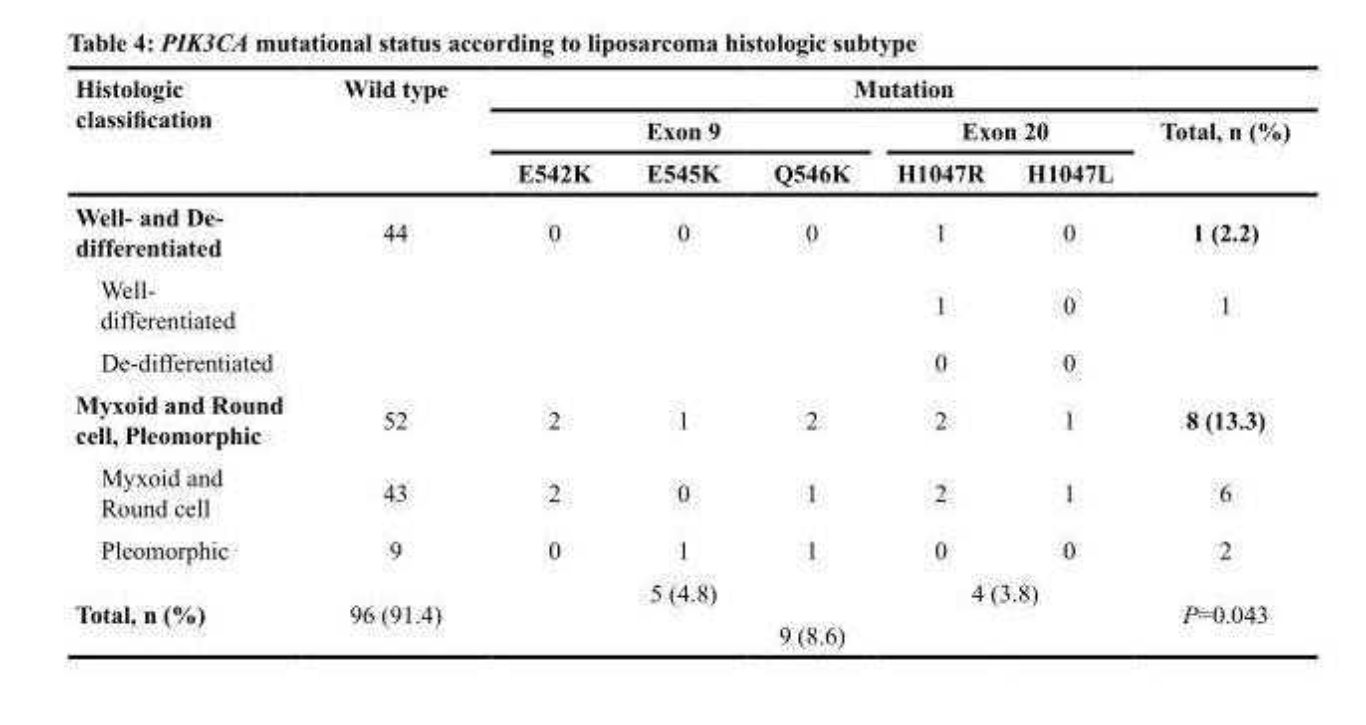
<table><thead><tr><td rowspan="3">Histologic classification</td><td rowspan="3">Wild type</td><td colspan="6">Mutation</td></tr><tr><td colspan="3">Exon 9</td><td colspan="2">Exon 20</td><td rowspan="2">Total, n (%)</td></tr><tr><td>E542K</td><td>E545K</td><td>Q546K</td><td>H1047R</td><td>H1047L</td></tr></thead><tbody><tr><td>Well- and De- differentiated</td><td>44</td><td>0</td><td>0</td><td>0</td><td>1</td><td>0</td><td>1 (2.2)</td></tr><tr><td>Well- differentiated</td><td></td><td></td><td></td><td></td><td>1</td><td>0</td><td>1</td></tr><tr><td>De-differentiated</td><td></td><td></td><td></td><td></td><td>0</td><td>0</td><td></td></tr><tr><td>Myxoid and Round cell, Pleomorphic</td><td>52</td><td>2</td><td>1</td><td>2</td><td>2</td><td>1</td><td>8 (13.3)</td></tr><tr><td>Myxoid and Round cell</td><td>43</td><td>2</td><td>0</td><td>1</td><td>2</td><td>1</td><td>6</td></tr><tr><td>Pleomorphic</td><td>9</td><td>0</td><td>1</td><td>1</td><td>0</td><td>0</td><td>2</td></tr><tr><td rowspan="2">Total, n (%)</td><td rowspan="2">96 (91.4)</td><td rowspan="2"></td><td rowspan="2">5 (4.8)</td><td></td><td colspan="2">4 (3.8)</td><td rowspan="2">P=0.043</td></tr><tr><td>9 (8.6)</td><td colspan="2"></td></tr></tbody></table>